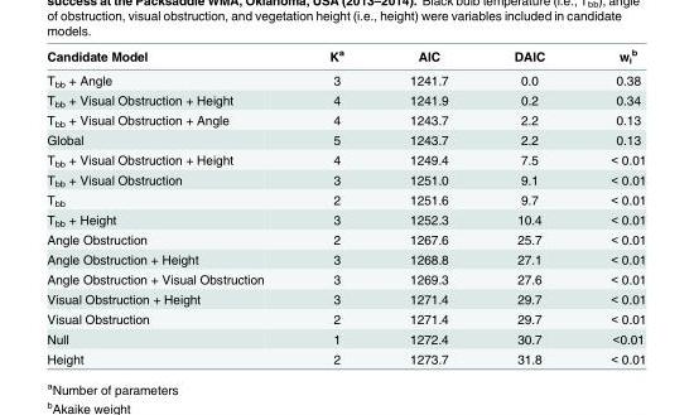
<table><thead><tr><td>Candidate Model</td><td>K<sup>a</sup></td><td>AIC</td><td>DAIC</td><td>w<sub>i</sub> <sup>b</sup></td></tr></thead><tbody><tr><td>T<sub>bb</sub> + Angle</td><td>3</td><td>1241.7</td><td>0.0</td><td>0.38</td></tr><tr><td>T<sub>bb</sub> + Visual Obstruction + Height</td><td>4</td><td>1241.9</td><td>0.2</td><td>0.34</td></tr><tr><td>T<sub>bb</sub> + Visual Obstruction + Angle</td><td>4</td><td>1243.7</td><td>2.2</td><td>0.13</td></tr><tr><td>Global</td><td>5</td><td>1243.7</td><td>2.2</td><td>0.13</td></tr><tr><td>T<sub>bb</sub> + Visual Obstruction + Height</td><td>4</td><td>1249.4</td><td>7.5</td><td>&lt; 0.01</td></tr><tr><td>T<sub>bb</sub> + Visual Obstruction</td><td>3</td><td>1251.0</td><td>9.1</td><td>&lt; 0.01</td></tr><tr><td>T<sub>bb</sub></td><td>2</td><td>1251.6</td><td>9.7</td><td>&lt; 0.01</td></tr><tr><td>T<sub>bb</sub> + Height</td><td>3</td><td>1252.3</td><td>10.4</td><td>&lt; 0.01</td></tr><tr><td>Angle Obstruction</td><td>2</td><td>1267.6</td><td>25.7</td><td>&lt; 0.01</td></tr><tr><td>Angle Obstruction + Height</td><td>3</td><td>1268.8</td><td>27.1</td><td>&lt; 0.01</td></tr><tr><td>Angle Obstruction + Visual Obstruction</td><td>3</td><td>1269.3</td><td>27.6</td><td>&lt; 0.01</td></tr><tr><td>Visual Obstruction + Height</td><td>3</td><td>1271.4</td><td>29.7</td><td>&lt; 0.01</td></tr><tr><td>Visual Obstruction</td><td>2</td><td>1271.4</td><td>29.7</td><td>&lt; 0.01</td></tr><tr><td>Null</td><td>1</td><td>1272.4</td><td>30.7</td><td>&lt;0.01</td></tr><tr><td>Height</td><td>2</td><td>1273.7</td><td>31.8</td><td>&lt; 0.01</td></tr></tbody></table>